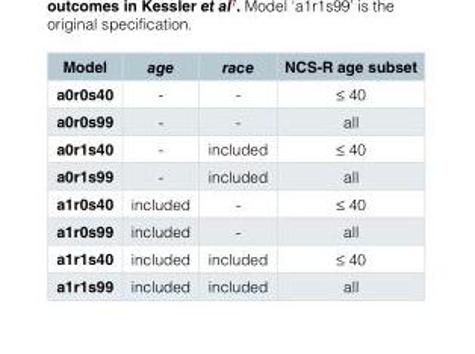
<table><thead><tr><td>Model</td><td>age</td><td>race</td><td>NCS-R age subset</td></tr></thead><tbody><tr><td>a0r0s40</td><td>-</td><td>-</td><td>≤ 40</td></tr><tr><td>a0r0s99</td><td>-</td><td>-</td><td>all</td></tr><tr><td>a0r1s40</td><td>-</td><td>included</td><td>≤ 40</td></tr><tr><td>a0r1s99</td><td>-</td><td>included</td><td>all</td></tr><tr><td>a1r0s40</td><td>included</td><td>-</td><td>≤ 40</td></tr><tr><td>a1r0s99</td><td>included</td><td>-</td><td>all</td></tr><tr><td>a1r1s40</td><td>included</td><td>included</td><td>≤ 40</td></tr><tr><td>a1r1s99</td><td>included</td><td>included</td><td>all</td></tr></tbody></table>